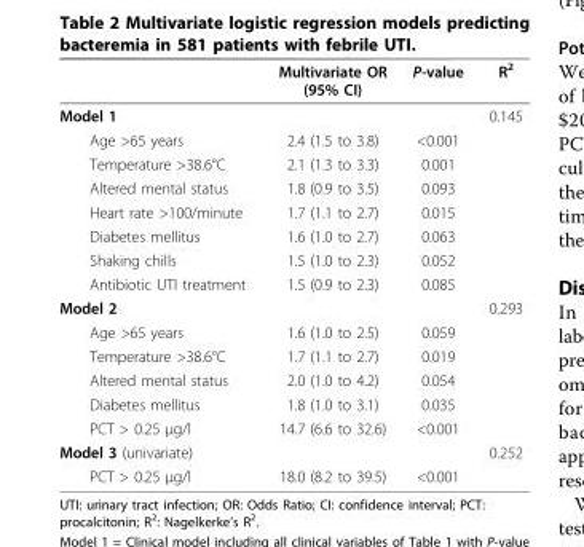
<table><thead><tr><td></td><td>Multivariate OR (95% CI)</td><td>P-value</td><td>R<sup>2</sup></td></tr></thead><tbody><tr><td>Model 1</td><td></td><td></td><td>0.145</td></tr><tr><td>Age &gt;65 years</td><td>2.4 (1.5 to 3.8)</td><td>&lt;0.001</td><td></td></tr><tr><td>Temperature &gt;38.6°C</td><td>2.1 (1.3 to 3.3)</td><td>0.001</td><td></td></tr><tr><td>Altered mental status</td><td>1.8 (0.9 to 3.5)</td><td>0.093</td><td></td></tr><tr><td>Heart rate &gt;100/minute</td><td>1.7 (1.1 to 2.7)</td><td>0.015</td><td></td></tr><tr><td>Diabetes mellitus</td><td>1.6 (1.0 to 2.7)</td><td>0.063</td><td></td></tr><tr><td>Shaking chills</td><td>1.5 (1.0 to 2.3)</td><td>0.052</td><td></td></tr><tr><td>Antibiotic UTI treatment</td><td>1.5 (0.9 to 2.3)</td><td>0.085</td><td></td></tr><tr><td>Model 2</td><td></td><td></td><td>0.293</td></tr><tr><td>Age &gt;65 years</td><td>1.6 (1.0 to 2.5)</td><td>0.059</td><td></td></tr><tr><td>Temperature &gt;38.6°C</td><td>1.7 (1.1 to 2.7)</td><td>0.019</td><td></td></tr><tr><td>Altered mental status</td><td>2.0 (1.0 to 4.2)</td><td>0.054</td><td></td></tr><tr><td>Diabetes mellitus</td><td>1.8 (1.0 to 3.1)</td><td>0.035</td><td></td></tr><tr><td>PCT &gt; 0.25 μg/l</td><td>14.7 (6.6 to 32.6)</td><td>&lt;0.001</td><td></td></tr><tr><td>Model 3 (univariate)</td><td></td><td></td><td>0.252</td></tr><tr><td>PCT &gt; 0.25 μg/l</td><td>18.0 (8.2 to 39.5)</td><td>&lt;0.001</td><td></td></tr></tbody></table>